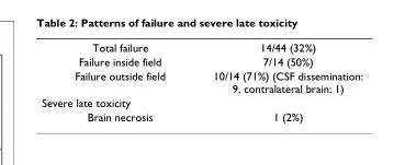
<table><tbody><tr><td>Total failure</td><td>14/44 (32%)</td></tr><tr><td>Failure inside field</td><td>7/14 (50%)</td></tr><tr><td>Failure outside field</td><td>10/14 (71%) (CSF dissemination: 9, contralateral brain: 1)</td></tr><tr><td colspan="2">Severe late toxicity</td></tr><tr><td>Brain necrosis</td><td>1 (2%)</td></tr></tbody></table>